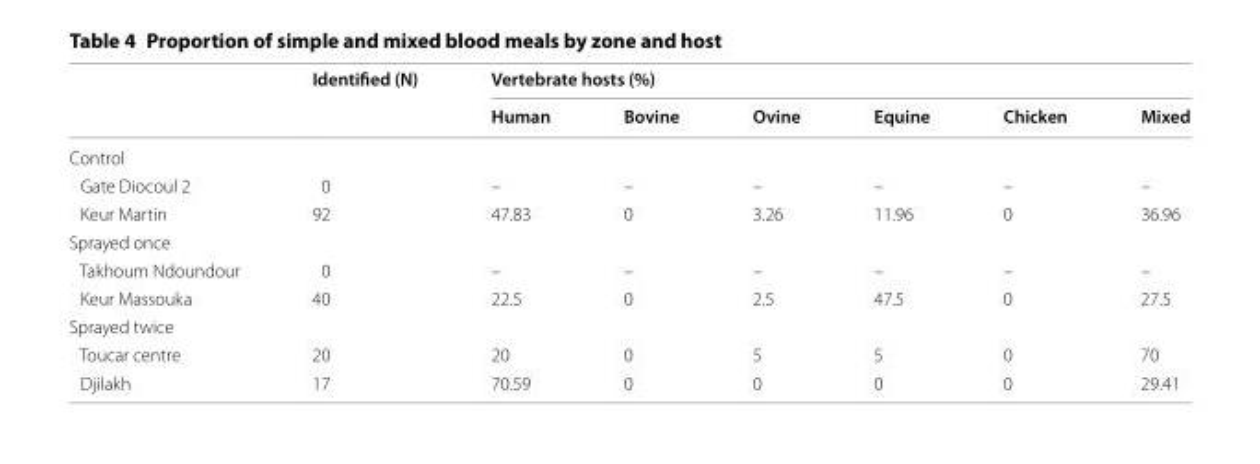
<table><thead><tr><td rowspan="2"></td><td rowspan="2">Identified (N)</td><td colspan="6">Vertebrate hosts (%)</td></tr><tr><td>Human</td><td>Bovine</td><td>Ovine</td><td>Equine</td><td>Chicken</td><td>Mixed</td></tr></thead><tbody><tr><td colspan="8">Control</td></tr><tr><td>Gate Diocoul 2</td><td>0</td><td>–</td><td>–</td><td>–</td><td>–</td><td>–</td><td>–</td></tr><tr><td>Keur Martin</td><td>92</td><td>47.83</td><td>0</td><td>3.26</td><td>11.96</td><td>0</td><td>36.96</td></tr><tr><td colspan="8">Sprayed once</td></tr><tr><td>Takhoum Ndoundour</td><td>0</td><td>–</td><td>–</td><td>–</td><td>–</td><td>–</td><td>–</td></tr><tr><td>Keur Massouka</td><td>40</td><td>22.5</td><td>0</td><td>2.5</td><td>47.5</td><td>0</td><td>27.5</td></tr><tr><td colspan="8">Sprayed twice</td></tr><tr><td>Toucar centre</td><td>20</td><td>20</td><td>0</td><td>5</td><td>5</td><td>0</td><td>70</td></tr><tr><td>Djilakh</td><td>17</td><td>70.59</td><td>0</td><td>0</td><td>0</td><td>0</td><td>29.41</td></tr></tbody></table>